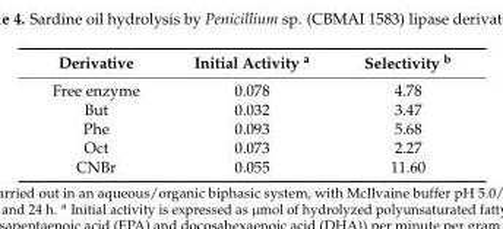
<table><thead><tr><td>Derivative</td><td>Initial Activity <sup>a</sup></td><td>Selectivity <sup>b</sup></td></tr></thead><tbody><tr><td>Free enzyme</td><td>0.078</td><td>4.78</td></tr><tr><td>But</td><td>0.032</td><td>3.47</td></tr><tr><td>Phe</td><td>0.093</td><td>5.68</td></tr><tr><td>Oct</td><td>0.073</td><td>2.27</td></tr><tr><td>CNBr</td><td>0.055</td><td>11.60</td></tr></tbody></table>